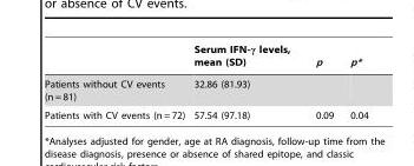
<table><thead><tr><td></td><td>Serum IFN-γ levels, mean (SD)</td><td>p</td><td>p*</td></tr></thead><tbody><tr><td>Patients without CV events (n = 81)</td><td>32.86 (81.93)</td><td></td><td></td></tr><tr><td>Patients with CV events (n = 72)</td><td>57.54 (97.18)</td><td>0.09</td><td>0.04</td></tr></tbody></table>